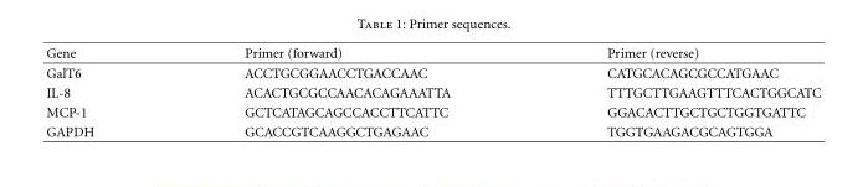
<table><thead><tr><td>Gene</td><td>Primer (forward)</td><td>Primer (reverse)</td></tr></thead><tbody><tr><td>GalT6</td><td>ACCTGCGGAACCTGACCAAC</td><td>CATGCACAGCGCCATGAAC</td></tr><tr><td>IL-8</td><td>ACACTGCGCCAACACAGAAATTA</td><td>TTTGCTTGAAGTTTCACTGGCATC</td></tr><tr><td>MCP-1</td><td>GCTCATAGCAGCCACCTTCATTC</td><td>GGACACTTGCTGCTGGTGATTC</td></tr><tr><td>GAPDH</td><td>GCACCGTCAAGGCTGAGAAC</td><td>TGGTGAAGACGCAGTGGA</td></tr></tbody></table>